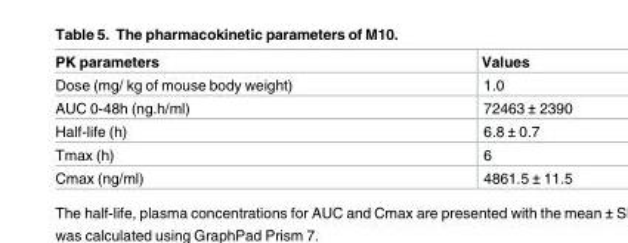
<table><thead><tr><td>PK parameters</td><td>Values</td></tr></thead><tbody><tr><td>Dose (mg/ kg of mouse body weight)</td><td>1.0</td></tr><tr><td>AUC 0-48h (ng.h/ml)</td><td>72463 ± 2390</td></tr><tr><td>Half-life (h)</td><td>6.8 ± 0.7</td></tr><tr><td>Tmax (h)</td><td>6</td></tr><tr><td>Cmax (ng/ml)</td><td>4861.5 ± 11.5</td></tr></tbody></table>